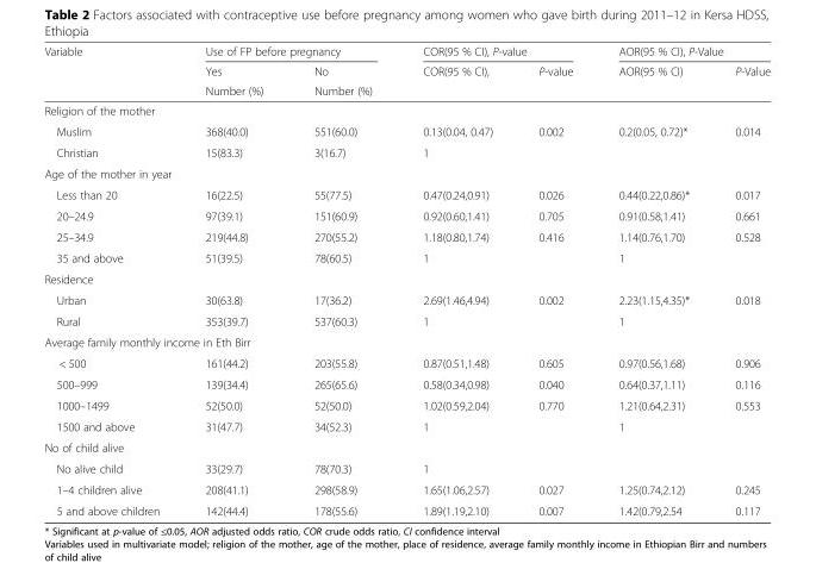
<table><thead><tr><td rowspan="3">Variable</td><td colspan="2">Use of FP before pregnancy</td><td colspan="2">COR(95 % CI), P-value</td><td colspan="2">AOR(95 % CI), P-Value</td></tr><tr><td rowspan="2">Yes Number (%)</td><td rowspan="2">No Number (%)</td><td rowspan="2">COR(95 % CI),</td><td rowspan="2">P-value</td><td rowspan="2">AOR(95 % CI)</td><td rowspan="2">P-Value</td></tr><tr></tr></thead><tbody><tr><td colspan="7">Religion of the mother</td></tr><tr><td>Muslim</td><td>368(40.0)</td><td>551(60.0)</td><td>0.13(0.04, 0.47)</td><td>0.002</td><td>0.2(0.05, 0.72)*</td><td>0.014</td></tr><tr><td>Christian</td><td>15(83.3)</td><td>3(16.7)</td><td>1</td><td></td><td></td><td></td></tr><tr><td colspan="7">Age of the mother in year</td></tr><tr><td>Less than 20</td><td>16(22.5)</td><td>55(77.5)</td><td>0.47(0.24,0.91)</td><td>0.026</td><td>0.44(0.22,0.86)*</td><td>0.017</td></tr><tr><td>20–24.9</td><td>97(39.1)</td><td>151(60.9)</td><td>0.92(0.60,1.41)</td><td>0.705</td><td>0.91(0.58,1.41)</td><td>0.661</td></tr><tr><td>25–34.9</td><td>219(44.8)</td><td>270(55.2)</td><td>1.18(0.80,1.74)</td><td>0.416</td><td>1.14(0.76,1.70)</td><td>0.528</td></tr><tr><td>35 and above</td><td>51(39.5)</td><td>78(60.5)</td><td>1</td><td></td><td>1</td><td></td></tr><tr><td colspan="7">Residence</td></tr><tr><td>Urban</td><td>30(63.8)</td><td>17(36.2)</td><td>2.69(1.46,4.94)</td><td>0.002</td><td>2.23(1.15,4.35)*</td><td>0.018</td></tr><tr><td>Rural</td><td>353(39.7)</td><td>537(60.3)</td><td>1</td><td></td><td>1</td><td></td></tr><tr><td colspan="7">Average family monthly income in Eth Birr</td></tr><tr><td>&lt; 500</td><td>161(44.2)</td><td>203(55.8)</td><td>0.87(0.51,1.48)</td><td>0.605</td><td>0.97(0.56,1.68)</td><td>0.906</td></tr><tr><td>500–999</td><td>139(34.4)</td><td>265(65.6)</td><td>0.58(0.34,0.98)</td><td>0.040</td><td>0.64(0.37,1.11)</td><td>0.116</td></tr><tr><td>1000–1499</td><td>52(50.0)</td><td>52(50.0)</td><td>1.02(0.59,2.04)</td><td>0.770</td><td>1.21(0.64,2.31)</td><td>0.553</td></tr><tr><td>1500 and above</td><td>31(47.7)</td><td>34(52.3)</td><td>1</td><td></td><td>1</td><td></td></tr><tr><td colspan="7">No of child alive</td></tr><tr><td>No alive child</td><td>33(29.7)</td><td>78(70.3)</td><td>1</td><td></td><td></td><td></td></tr><tr><td>1–4 children alive</td><td>208(41.1)</td><td>298(58.9)</td><td>1.65(1.06,2.57)</td><td>0.027</td><td>1.25(0.74,2.12)</td><td>0.245</td></tr><tr><td>5 and above children</td><td>142(44.4)</td><td>178(55.6)</td><td>1.89(1.19,2.10)</td><td>0.007</td><td>1.42(0.79,2.54</td><td>0.117</td></tr></tbody></table>